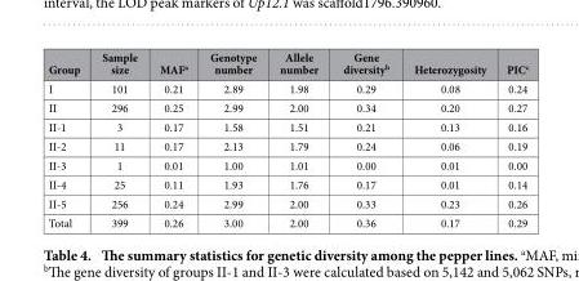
<table><thead><tr><td>Group</td><td>Sample size</td><td>MAF<sup>a</sup></td><td>Genotype number</td><td>Allele number</td><td>Gene diversity<sup>b</sup></td><td>Heterozygosity</td><td>PIC<sup>c</sup></td></tr></thead><tbody><tr><td>I</td><td>101</td><td>0.21</td><td>2.89</td><td>1.98</td><td>0.29</td><td>0.08</td><td>0.24</td></tr><tr><td>II</td><td>296</td><td>0.25</td><td>2.99</td><td>2.00</td><td>0.34</td><td>0.20</td><td>0.27</td></tr><tr><td>II-1</td><td>3</td><td>0.17</td><td>1.58</td><td>1.51</td><td>0.21</td><td>0.13</td><td>0.16</td></tr><tr><td>II-2</td><td>11</td><td>0.17</td><td>2.13</td><td>1.79</td><td>0.24</td><td>0.06</td><td>0.19</td></tr><tr><td>II-3</td><td>1</td><td>0.01</td><td>1.00</td><td>1.01</td><td>0.00</td><td>0.01</td><td>0.00</td></tr><tr><td>II-4</td><td>25</td><td>0.11</td><td>1.93</td><td>1.76</td><td>0.17</td><td>0.01</td><td>0.14</td></tr><tr><td>II-5</td><td>256</td><td>0.24</td><td>2.99</td><td>2.00</td><td>0.33</td><td>0.23</td><td>0.26</td></tr><tr><td>Total</td><td>399</td><td>0.26</td><td>3.00</td><td>2.00</td><td>0.36</td><td>0.17</td><td>0.29</td></tr></tbody></table>